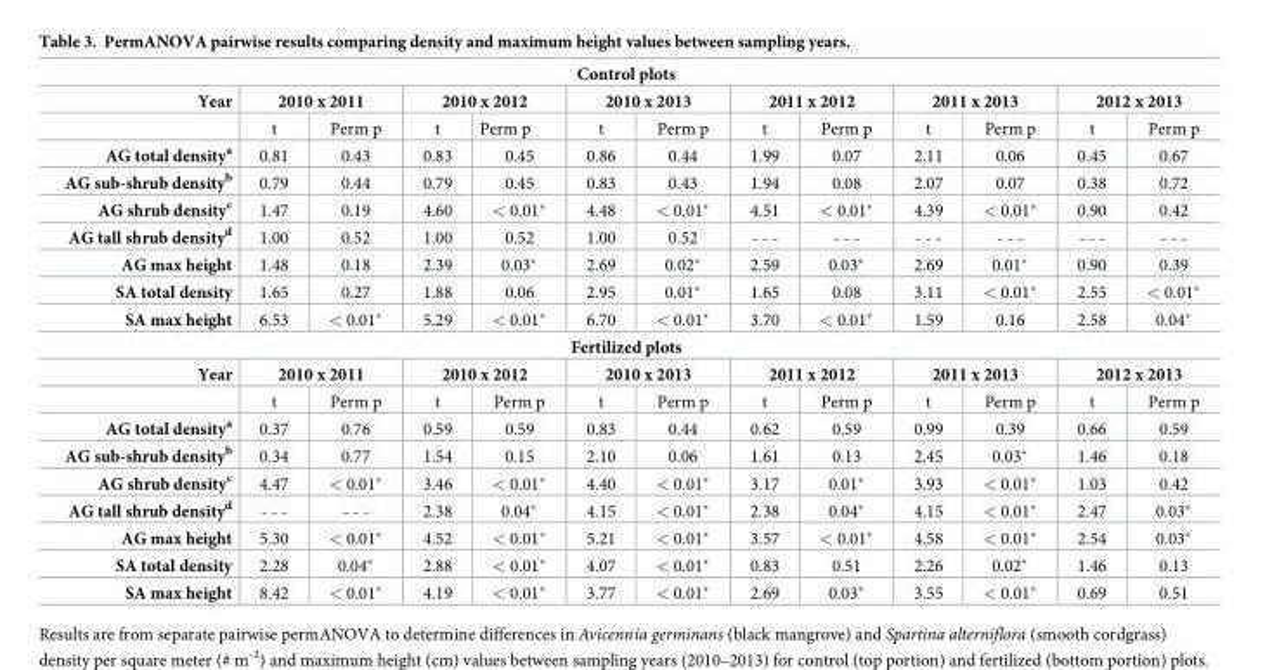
<table><tbody><tr><td colspan="13">Control plots</td></tr><tr><td rowspan="2">Year</td><td colspan="2">2010 x 2011</td><td colspan="2">2010 x 2012</td><td colspan="2">2010 x 2013</td><td colspan="2">2011 x 2012</td><td colspan="2">2011 x 2013</td><td colspan="2">2012 x 2013</td></tr><tr><td>t</td><td>Perm p</td><td>t</td><td>Perm p</td><td>t</td><td>Perm p</td><td>t</td><td>Perm p</td><td>t</td><td>Perm p</td><td>t</td><td>Perm p</td></tr><tr><td>AG total density<sup>a</sup></td><td>0.81</td><td>0.43</td><td>0.83</td><td>0.45</td><td>0.86</td><td>0.44</td><td>1.99</td><td>0.07</td><td>2.11</td><td>0.06</td><td>0.45</td><td>0.67</td></tr><tr><td>AG sub-shrub density<sup>b</sup></td><td>0.79</td><td>0.44</td><td>0.79</td><td>0.45</td><td>0.83</td><td>0.43</td><td>1.94</td><td>0.08</td><td>2.07</td><td>0.07</td><td>0.38</td><td>0.72</td></tr><tr><td>AG shrub density<sup>c</sup></td><td>1.47</td><td>0.19</td><td>4.60</td><td>&lt; 0.01*</td><td>4.48</td><td>&lt; 0.01*</td><td>4.51</td><td>&lt; 0.01*</td><td>4.39</td><td>&lt; 0.01*</td><td>0.90</td><td>0.42</td></tr><tr><td>AG tall shrub density<sup>d</sup></td><td>1.00</td><td>0.52</td><td>1.00</td><td>0.52</td><td>1.00</td><td>0.52</td><td>- - -</td><td>- - -</td><td>- - -</td><td>- - -</td><td>- - -</td><td>- - -</td></tr><tr><td>AG max height</td><td>1.48</td><td>0.18</td><td>2.39</td><td>0.03*</td><td>2.69</td><td>0.02*</td><td>2.59</td><td>0.03*</td><td>2.69</td><td>0.01*</td><td>0.90</td><td>0.39</td></tr><tr><td>SA total density</td><td>1.65</td><td>0.27</td><td>1.88</td><td>0.06</td><td>2.95</td><td>0.01*</td><td>1.65</td><td>0.08</td><td>3.11</td><td>&lt; 0.01*</td><td>2.55</td><td>&lt; 0.01*</td></tr><tr><td>SA max height</td><td>6.53</td><td>&lt; 0.01*</td><td>5.29</td><td>&lt; 0.01*</td><td>6.70</td><td>&lt; 0.01*</td><td>3.70</td><td>&lt; 0.01*</td><td>1.59</td><td>0.16</td><td>2.58</td><td>0.04*</td></tr><tr><td colspan="13">Fertilized plots</td></tr><tr><td rowspan="2">Year</td><td colspan="2">2010 x 2011</td><td colspan="2">2010 x 2012</td><td colspan="2">2010 x 2013</td><td colspan="2">2011 x 2012</td><td colspan="2">2011 x 2013</td><td colspan="2">2012 x 2013</td></tr><tr><td>t</td><td>Perm p</td><td>t</td><td>Perm p</td><td>t</td><td>Perm p</td><td>t</td><td>Perm p</td><td>t</td><td>Perm p</td><td>t</td><td>Perm p</td></tr><tr><td>AG total density<sup>a</sup></td><td>0.37</td><td>0.76</td><td>0.59</td><td>0.59</td><td>0.83</td><td>0.44</td><td>0.62</td><td>0.59</td><td>0.99</td><td>0.39</td><td>0.66</td><td>0.59</td></tr><tr><td>AG sub-shrub density<sup>b</sup></td><td>0.34</td><td>0.77</td><td>1.54</td><td>0.15</td><td>2.10</td><td>0.06</td><td>1.61</td><td>0.13</td><td>2.45</td><td>0.03*</td><td>1.46</td><td>0.18</td></tr><tr><td>AG shrub density<sup>c</sup></td><td>4.47</td><td>&lt; 0.01*</td><td>3.46</td><td>&lt; 0.01*</td><td>4.40</td><td>&lt; 0.01*</td><td>3.17</td><td>0.01*</td><td>3.93</td><td>&lt; 0.01*</td><td>1.03</td><td>0.42</td></tr><tr><td>AG tall shrub density<sup>d</sup></td><td>- - -</td><td>- - -</td><td>2.38</td><td>0.04*</td><td>4.15</td><td>&lt; 0.01*</td><td>2.38</td><td>0.04*</td><td>4.15</td><td>&lt; 0.01*</td><td>2.47</td><td>0.03*</td></tr><tr><td>AG max height</td><td>5.30</td><td>&lt; 0.01*</td><td>4.52</td><td>&lt; 0.01*</td><td>5.21</td><td>&lt; 0.01*</td><td>3.57</td><td>&lt; 0.01*</td><td>4.58</td><td>&lt; 0.01*</td><td>2.54</td><td>0.03*</td></tr><tr><td>SA total density</td><td>2.28</td><td>0.04*</td><td>2.88</td><td>&lt; 0.01*</td><td>4.07</td><td>&lt; 0.01*</td><td>0.83</td><td>0.51</td><td>2.26</td><td>0.02*</td><td>1.46</td><td>0.13</td></tr><tr><td>SA max height</td><td>8.42</td><td>&lt; 0.01*</td><td>4.19</td><td>&lt; 0.01*</td><td>3.77</td><td>&lt; 0.01*</td><td>2.69</td><td>0.03*</td><td>3.55</td><td>&lt; 0.01*</td><td>0.69</td><td>0.51</td></tr></tbody></table>